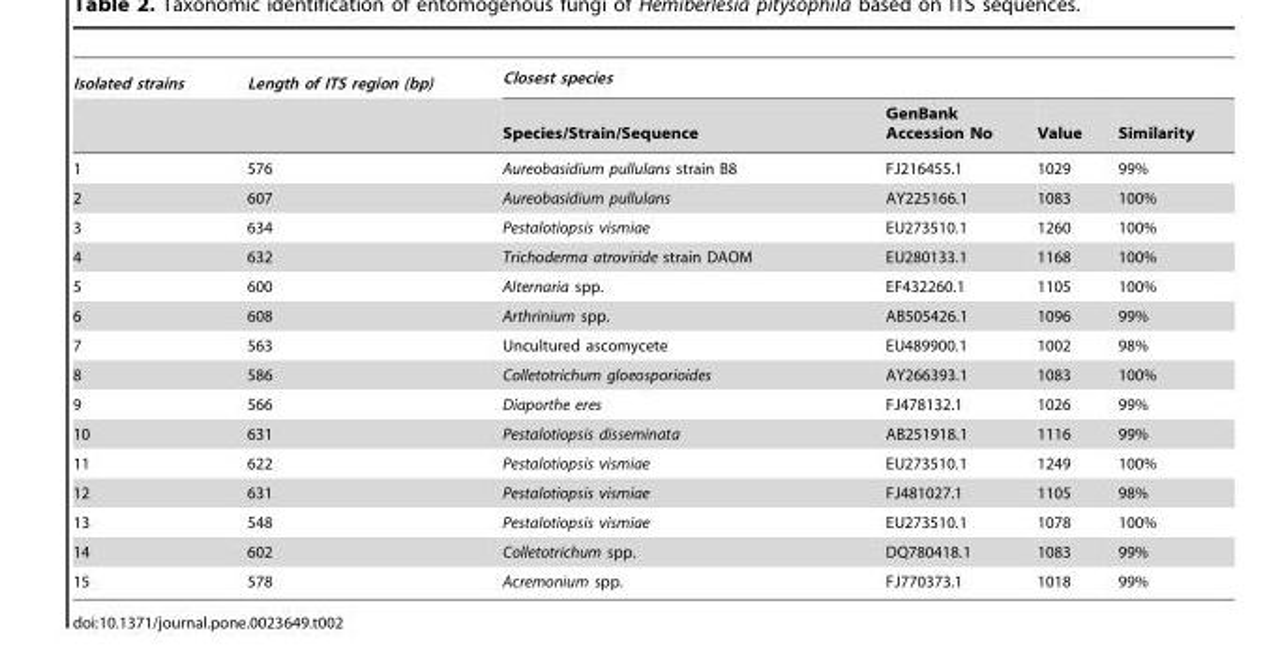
<table><thead><tr><td rowspan="2">Isolated strains</td><td rowspan="2">Length of ITS region (bp)</td><td colspan="4">Closest species</td></tr><tr><td>Species/Strain/Sequence</td><td>GenBank Accession No</td><td>Value</td><td>Similarity</td></tr></thead><tbody><tr><td>1</td><td>576</td><td>Aureobasidium pullulans strain B8</td><td>FJ216455.1</td><td>1029</td><td>99%</td></tr><tr><td>2</td><td>607</td><td>Aureobasidium pullulans</td><td>AY225166.1</td><td>1083</td><td>100%</td></tr><tr><td>3</td><td>634</td><td>Pestalotiopsis vismiae</td><td>EU273510.1</td><td>1260</td><td>100%</td></tr><tr><td>4</td><td>632</td><td>Trichoderma atroviride strain DAOM</td><td>EU280133.1</td><td>1168</td><td>100%</td></tr><tr><td>5</td><td>600</td><td>Alternaria spp.</td><td>EF432260.1</td><td>1105</td><td>100%</td></tr><tr><td>6</td><td>608</td><td>Arthrinium spp.</td><td>AB505426.1</td><td>1096</td><td>99%</td></tr><tr><td>7</td><td>563</td><td>Uncultured ascomycete</td><td>EU489900.1</td><td>1002</td><td>98%</td></tr><tr><td>8</td><td>586</td><td>Colletotrichum gloeosporioides</td><td>AY266393.1</td><td>1083</td><td>100%</td></tr><tr><td>9</td><td>566</td><td>Diaporthe eres</td><td>FJ478132.1</td><td>1026</td><td>99%</td></tr><tr><td>10</td><td>631</td><td>Pestalotiopsis disseminata</td><td>AB251918.1</td><td>1116</td><td>99%</td></tr><tr><td>11</td><td>622</td><td>Pestalotiopsis vismiae</td><td>EU273510.1</td><td>1249</td><td>100%</td></tr><tr><td>12</td><td>631</td><td>Pestalotiopsis vismiae</td><td>FJ481027.1</td><td>1105</td><td>98%</td></tr><tr><td>13</td><td>548</td><td>Pestalotiopsis vismiae</td><td>EU273510.1</td><td>1078</td><td>100%</td></tr><tr><td>14</td><td>602</td><td>Colletotrichum spp.</td><td>DQ780418.1</td><td>1083</td><td>99%</td></tr><tr><td>15</td><td>578</td><td>Acremonium spp.</td><td>FJ770373.1</td><td>1018</td><td>99%</td></tr></tbody></table>